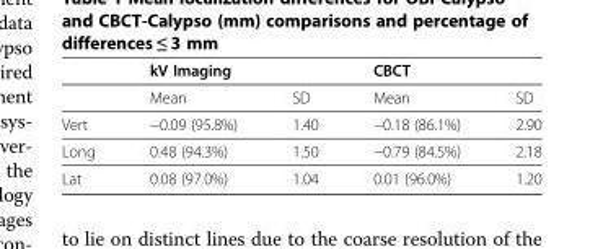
<table><thead><tr><td rowspan="2"></td><td colspan="2">kV Imaging</td><td colspan="2">CBCT</td></tr><tr><td>Mean</td><td>SD</td><td>Mean</td><td>SD</td></tr></thead><tbody><tr><td>Vert</td><td>−0.09 (95.8%)</td><td>1.40</td><td>−0.18 (86.1%)</td><td>2.90</td></tr><tr><td>Long</td><td>0.48 (94.3%)</td><td>1.50</td><td>−0.79 (84.5%)</td><td>2.18</td></tr><tr><td>Lat</td><td>0.08 (97.0%)</td><td>1.04</td><td>0.01 (96.0%)</td><td>1.20</td></tr></tbody></table>